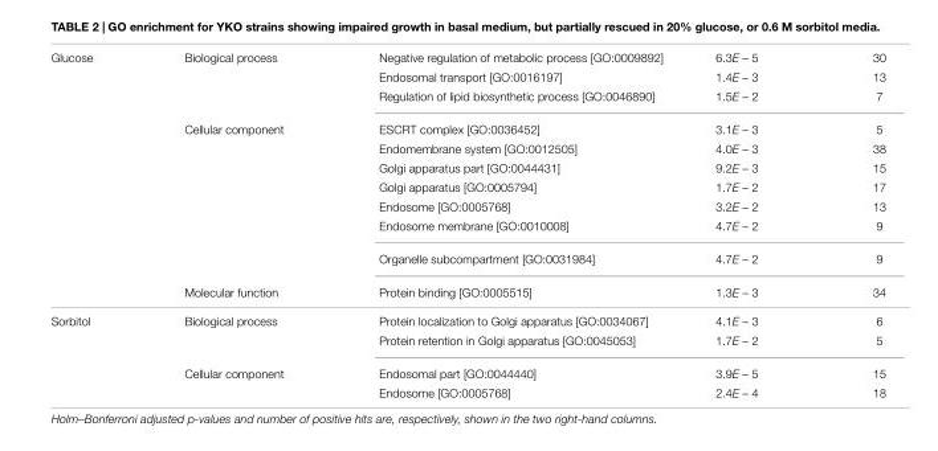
<table><thead><tr><td>Glucose</td><td>Biological process</td><td>Negative regulation of metabolic process [GO:0009892]</td><td>6.3E – 5</td><td>30</td></tr></thead><tbody><tr><td></td><td></td><td>Endosomal transport [GO:0016197]</td><td>1.4E – 3</td><td>13</td></tr><tr><td></td><td></td><td>Regulation of lipid biosynthetic process [GO:0046890]</td><td>1.5E – 2</td><td>7</td></tr><tr><td></td><td>Cellular component</td><td>ESCRT complex [GO:0036452]</td><td>3.1E – 3</td><td>5</td></tr><tr><td></td><td></td><td>Endomembrane system [GO:0012505]</td><td>4.0E – 3</td><td>38</td></tr><tr><td></td><td></td><td>Golgi apparatus part [GO:0044431]</td><td>9.2E – 3</td><td>15</td></tr><tr><td></td><td></td><td>Golgi apparatus [GO:0005794]</td><td>1.7E – 2</td><td>17</td></tr><tr><td></td><td></td><td>Endosome [GO:0005768]</td><td>3.2E – 2</td><td>13</td></tr><tr><td></td><td></td><td>Endosome membrane [GO:0010008]</td><td>4.7E – 2</td><td>9</td></tr><tr><td></td><td></td><td>Organelle subcompartment [GO:0031984]</td><td>4.7E – 2</td><td>9</td></tr><tr><td></td><td>Molecular function</td><td>Protein binding [GO:0005515]</td><td>1.3E – 3</td><td>34</td></tr><tr><td rowspan="4">Sorbitol</td><td>Biological process</td><td>Protein localization to Golgi apparatus [GO:0034067]</td><td>4.1E – 3</td><td>6</td></tr><tr><td></td><td>Protein retention in Golgi apparatus [GO:0045053]</td><td>1.7E – 2</td><td>5</td></tr><tr><td>Cellular component</td><td>Endosomal part [GO:0044440]</td><td>3.9E – 5</td><td>15</td></tr><tr><td></td><td>Endosome [GO:0005768]</td><td>2.4E – 4</td><td>18</td></tr></tbody></table>